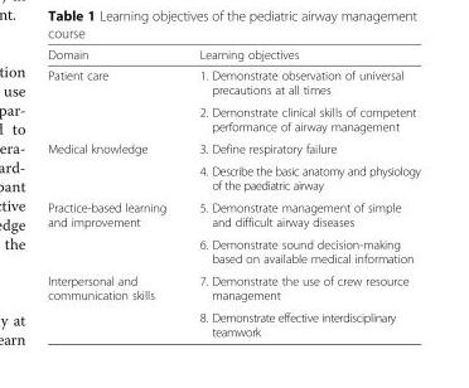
<table><thead><tr><td>Domain</td><td>Learning objectives</td></tr></thead><tbody><tr><td rowspan="2">Patient care</td><td>1. Demonstrate observation of universal precautions at all times</td></tr><tr><td>2. Demonstrate clinical skills of competent performance of airway management</td></tr><tr><td rowspan="2">Medical knowledge</td><td>3. Define respiratory failure</td></tr><tr><td>4. Describe the basic anatomy and physiology of the paediatric airway</td></tr><tr><td rowspan="2">Practice-based learning and improvement</td><td>5. Demonstrate management of simple and difficult airway diseases</td></tr><tr><td>6. Demonstrate sound decision-making based on available medical information</td></tr><tr><td rowspan="2">Interpersonal and communication skills</td><td>7. Demonstrate the use of crew resource management</td></tr><tr><td>8. Demonstrate effective interdisciplinary teamwork</td></tr></tbody></table>